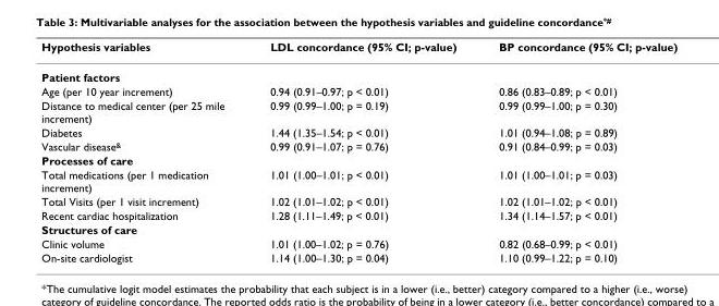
<table><thead><tr><td>Hypothesis variables</td><td>LDL concordance (95% CI; p-value)</td><td>BP concordance (95% CI; p-value)</td></tr></thead><tbody><tr><td colspan="3">Patient factors</td></tr><tr><td>Age (per 10 year increment)</td><td>0.94 (0.91–0.97; p &lt; 0.01)</td><td>0.86 (0.83–0.89; p &lt; 0.01)</td></tr><tr><td>Distance to medical center (per 25 mile increment)</td><td>0.99 (0.99–1.00; p = 0.19)</td><td>0.99 (0.99–1.00; p = 0.30)</td></tr><tr><td>Diabetes</td><td>1.44 (1.35–1.54; p &lt; 0.01)</td><td>1.01 (0.94–1.08; p = 0.89)</td></tr><tr><td>Vascular disease<sup>&amp;</sup></td><td>0.99 (0.91–1.07; p = 0.76)</td><td>0.91 (0.84–0.99; p = 0.03)</td></tr><tr><td colspan="3">Processes of care</td></tr><tr><td>Total medications (per 1 medication increment)</td><td>1.01 (1.00–1.01; p &lt; 0.01)</td><td>1.01 (1.00–1.01; p = 0.03)</td></tr><tr><td>Total Visits (per 1 visit increment)</td><td>1.02 (1.01–1.02; p &lt; 0.01)</td><td>1.02 (1.01–1.02; p &lt; 0.01)</td></tr><tr><td>Recent cardiac hospitalization</td><td>1.28 (1.11–1.49; p &lt; 0.01)</td><td>1.34 (1.14–1.57; p &lt; 0.01)</td></tr><tr><td colspan="3">Structures of care</td></tr><tr><td>Clinic volume</td><td>1.01 (1.00–1.02; p = 0.76)</td><td>0.82 (0.68–0.99; p &lt; 0.01)</td></tr><tr><td>On-site cardiologist</td><td>1.14 (1.00–1.30; p = 0.04)</td><td>1.10 (0.99–1.22; p = 0.10)</td></tr></tbody></table>